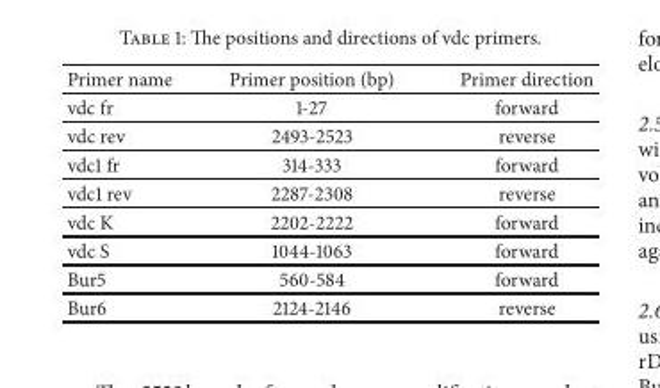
<table><thead><tr><td>Primer name</td><td>Primer position (bp)</td><td>Primer direction</td></tr></thead><tbody><tr><td>vdc fr</td><td>1-27</td><td>forward</td></tr><tr><td>vdc rev</td><td>2493-2523</td><td>reverse</td></tr><tr><td>vdc1 fr</td><td>314-333</td><td>forward</td></tr><tr><td>vdc1 rev</td><td>2287-2308</td><td>reverse</td></tr><tr><td>vdc K</td><td>2202-2222</td><td>forward</td></tr><tr><td>vdc S</td><td>1044-1063</td><td>forward</td></tr><tr><td>Bur5</td><td>560-584</td><td>forward</td></tr><tr><td>Bur6</td><td>2124-2146</td><td>reverse</td></tr></tbody></table>